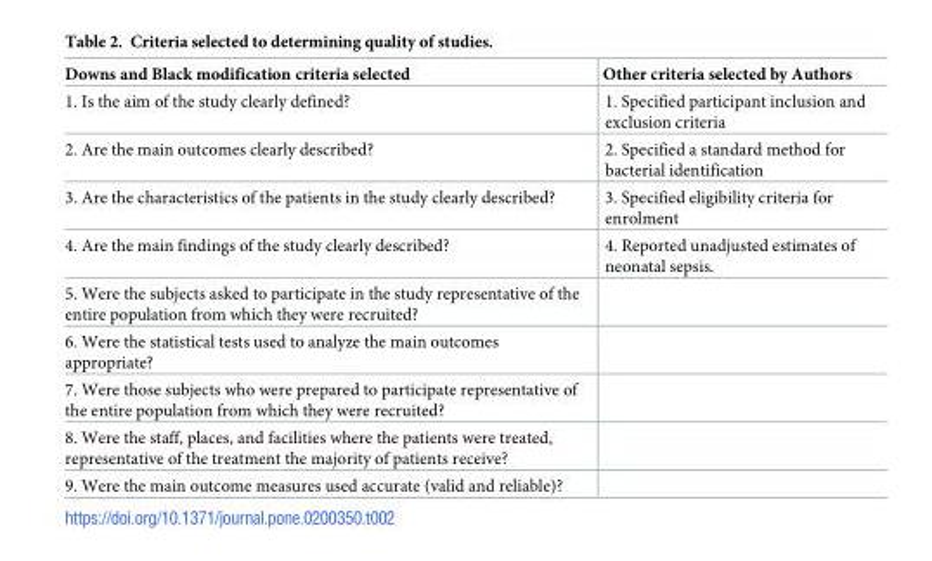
<table><thead><tr><td>Downs and Black modification criteria selected</td><td>Other criteria selected by Authors</td></tr></thead><tbody><tr><td>1. Is the aim of the study clearly defined?</td><td>1. Specified participant inclusion and exclusion criteria</td></tr><tr><td>2. Are the main outcomes clearly described?</td><td>2. Specified a standard method for bacterial identification</td></tr><tr><td>3. Are the characteristics of the patients in the study clearly described?</td><td>3. Specified eligibility criteria for enrolment</td></tr><tr><td>4. Are the main findings of the study clearly described?</td><td>4. Reported unadjusted estimates of neonatal sepsis.</td></tr><tr><td colspan="2">5. Were the subjects asked to participate in the study representative of the entire population from which they were recruited?</td></tr><tr><td colspan="2">6. Were the statistical tests used to analyze the main outcomes appropriate?</td></tr><tr><td colspan="2">7. Were those subjects who were prepared to participate representative of the entire population from which they were recruited?</td></tr><tr><td colspan="2">8. Were the staff, places, and facilities where the patients were treated, representative of the treatment the majority of patients receive?</td></tr><tr><td>9. Were the main outcome measures used accurate (valid and reliable)?</td><td></td></tr></tbody></table>